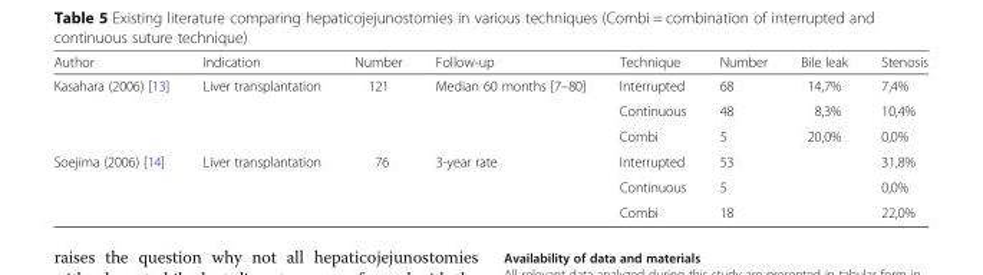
<table><thead><tr><td>Author</td><td>Indication</td><td>Number</td><td>Follow-up</td><td>Technique</td><td>Number</td><td>Bile leak</td><td>Stenosis</td></tr></thead><tbody><tr><td rowspan="3">Kasahara (2006) [13]</td><td rowspan="3">Liver transplantation</td><td rowspan="3">121</td><td rowspan="3">Median 60 months [7–80]</td><td>Interrupted</td><td>68</td><td>14,7%</td><td>7,4%</td></tr><tr><td>Continuous</td><td>48</td><td>8,3%</td><td>10,4%</td></tr><tr><td>Combi</td><td>5</td><td>20,0%</td><td>0,0%</td></tr><tr><td rowspan="3">Soejima (2006) [14]</td><td rowspan="3">Liver transplantation</td><td rowspan="3">76</td><td rowspan="3">3-year rate</td><td>Interrupted</td><td>53</td><td></td><td>31,8%</td></tr><tr><td>Continuous</td><td>5</td><td></td><td>0,0%</td></tr><tr><td>Combi</td><td>18</td><td></td><td>22,0%</td></tr></tbody></table>